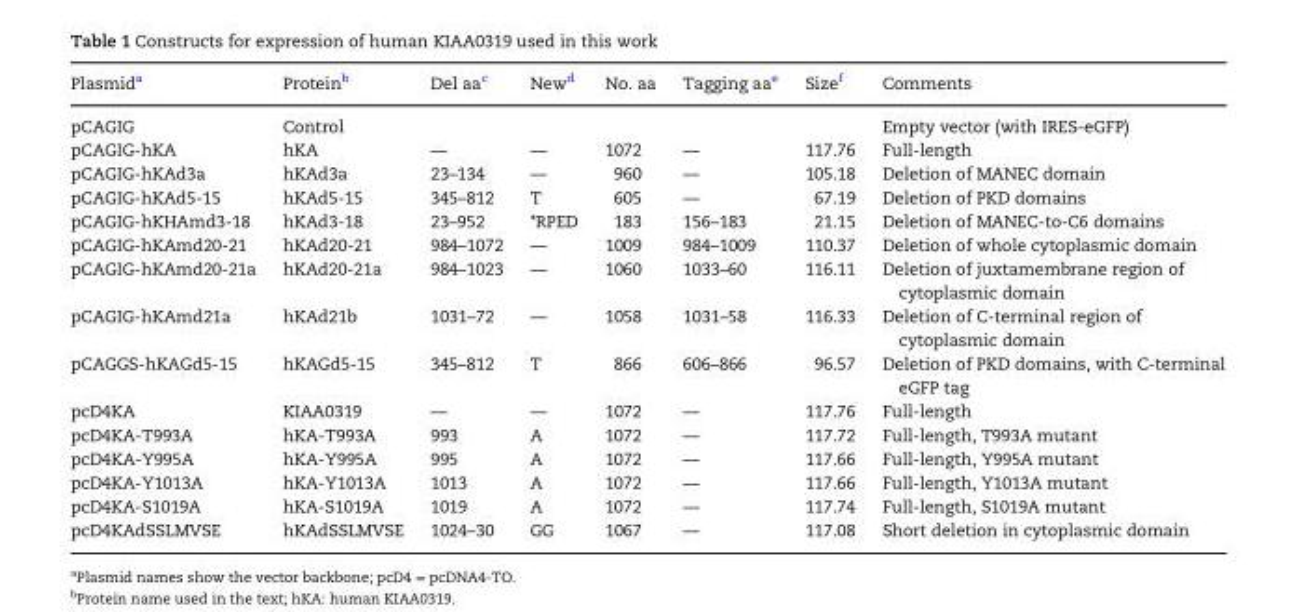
<table><thead><tr><td>Plasmid<sup>a</sup></td><td>Protein<sup>b</sup></td><td>Del aa<sup>c</sup></td><td>New<sup>d</sup></td><td>No. aa</td><td>Tagging aa<sup>e</sup></td><td>Size<sup>f</sup></td><td>Comments</td></tr></thead><tbody><tr><td>pCAGIG</td><td>Control</td><td></td><td></td><td></td><td></td><td></td><td>Empty vector (with IRES-eGFP)</td></tr><tr><td>pCAGIG-hKA</td><td>hKA</td><td>—</td><td>—</td><td>1072</td><td>—</td><td>117.76</td><td>Full-length</td></tr><tr><td>pCAGIG-hKAd3a</td><td>hKAd3a</td><td>23–134</td><td>—</td><td>960</td><td>—</td><td>105.18</td><td>Deletion of MANEC domain</td></tr><tr><td>pCAGIG-hKAd5-15</td><td>hKAd5-15</td><td>345–812</td><td>T</td><td>605</td><td>—</td><td>67.19</td><td>Deletion of PKD domains</td></tr><tr><td>pCAGIG-hKHAmd3-18</td><td>hKAd3-18</td><td>23–952</td><td>*RPED</td><td>183</td><td>156–183</td><td>21.15</td><td>Deletion of MANEC-to-C6 domains</td></tr><tr><td>pCAGIG-hKAmd20-21</td><td>hKAd20-21</td><td>984–1072</td><td>—</td><td>1009</td><td>984–1009</td><td>110.37</td><td>Deletion of whole cytoplasmic domain</td></tr><tr><td>pCAGIG-hKAmd20-21a</td><td>hKAd20-21a</td><td>984–1023</td><td>—</td><td>1060</td><td>1033–60</td><td>116.11</td><td>Deletion of juxtamembrane region of cytoplasmic domain</td></tr><tr><td>pCAGIG-hKAmd21a</td><td>hKAd21b</td><td>1031–72</td><td>—</td><td>1058</td><td>1031–58</td><td>116.33</td><td>Deletion of C-terminal region of cytoplasmic domain</td></tr><tr><td>pCAGGS-hKAGd5-15</td><td>hKAGd5-15</td><td>345–812</td><td>T</td><td>866</td><td>606–866</td><td>96.57</td><td>Deletion of PKD domains, with C-terminal eGFP tag</td></tr><tr><td>pcD4KA</td><td>KIAA0319</td><td>—</td><td>—</td><td>1072</td><td>—</td><td>117.76</td><td>Full-length</td></tr><tr><td>pcD4KA-T993A</td><td>hKA-T993A</td><td>993</td><td>A</td><td>1072</td><td>—</td><td>117.72</td><td>Full-length, T993A mutant</td></tr><tr><td>pcD4KA-Y995A</td><td>hKA-Y995A</td><td>995</td><td>A</td><td>1072</td><td>—</td><td>117.66</td><td>Full-length, Y995A mutant</td></tr><tr><td>pcD4KA-Y1013A</td><td>hKA-Y1013A</td><td>1013</td><td>A</td><td>1072</td><td>—</td><td>117.66</td><td>Full-length, Y1013A mutant</td></tr><tr><td>pcD4KA-S1019A</td><td>hKA-S1019A</td><td>1019</td><td>A</td><td>1072</td><td>—</td><td>117.74</td><td>Full-length, S1019A mutant</td></tr><tr><td>pcD4KAdSSLMVSE</td><td>hKAdSSLMVSE</td><td>1024–30</td><td>GG</td><td>1067</td><td>—</td><td>117.08</td><td>Short deletion in cytoplasmic domain</td></tr></tbody></table>